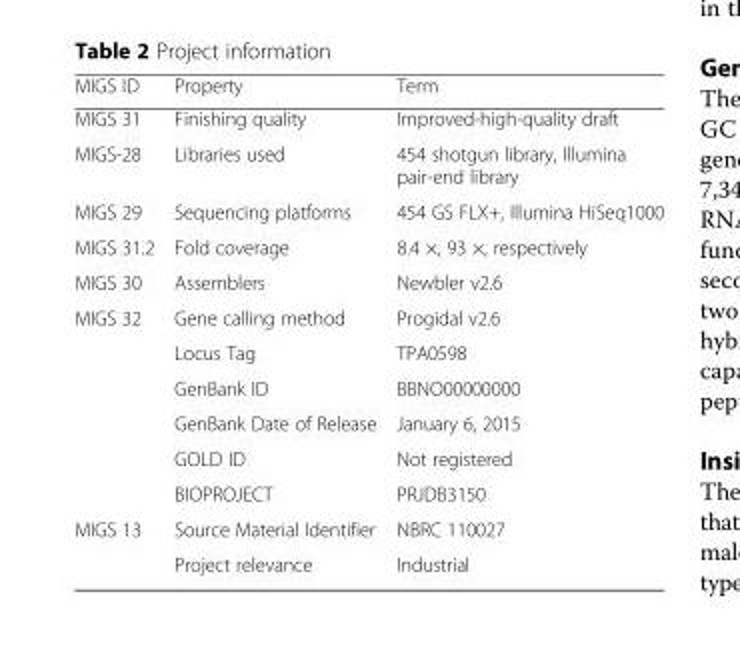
<table><thead><tr><td>MIGS ID</td><td>Property</td><td>Term</td></tr></thead><tbody><tr><td>MIGS 31</td><td>Finishing quality</td><td>Improved-high-quality draft</td></tr><tr><td>MIGS-28</td><td>Libraries used</td><td>454 shotgun library, Illumina pair-end library</td></tr><tr><td>MIGS 29</td><td>Sequencing platforms</td><td>454 GS FLX+, Illumina HiSeq1000</td></tr><tr><td>MIGS 31.2</td><td>Fold coverage</td><td>8.4 ×, 93 ×, respectively</td></tr><tr><td>MIGS 30</td><td>Assemblers</td><td>Newbler v2.6</td></tr><tr><td rowspan="6">MIGS 32</td><td>Gene calling method</td><td>Progidal v2.6</td></tr><tr><td>Locus Tag</td><td>TPA0598</td></tr><tr><td>GenBank ID</td><td>BBNO00000000</td></tr><tr><td>GenBank Date of Release</td><td>January 6, 2015</td></tr><tr><td>GOLD ID</td><td>Not registered</td></tr><tr><td>BIOPROJECT</td><td>PRJDB3150</td></tr><tr><td rowspan="2">MIGS 13</td><td>Source Material Identifier</td><td>NBRC 110027</td></tr><tr><td>Project relevance</td><td>Industrial</td></tr></tbody></table>